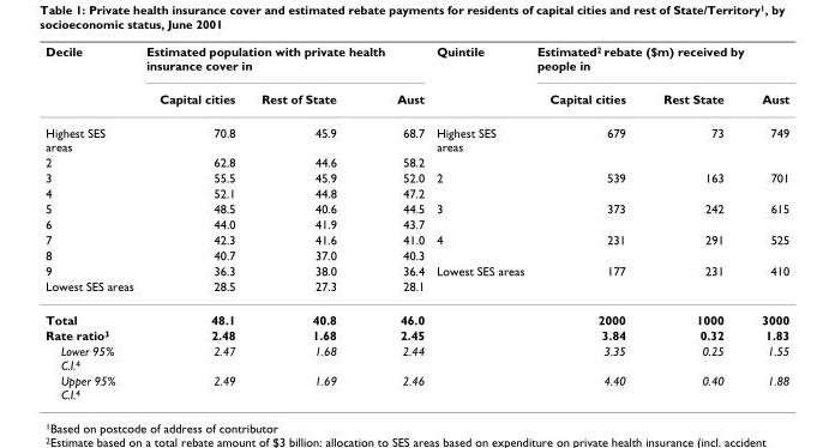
<table><thead><tr><td rowspan="2">Decile</td><td colspan="3">Estimated population with private health insurance cover in</td><td rowspan="2">Quintile</td><td colspan="3">Estimated<sup>2</sup> rebate ($m) received by people in</td></tr><tr><td>Capital cities</td><td>Rest of State</td><td>Aust</td><td>Capital cities</td><td>Rest State</td><td>Aust</td></tr></thead><tbody><tr><td>Highest SES areas</td><td>70.8</td><td>45.9</td><td>68.7</td><td>Highest SES areas</td><td>679</td><td>73</td><td>749</td></tr><tr><td>2</td><td>62.8</td><td>44.6</td><td>58.2</td><td></td><td></td><td></td><td></td></tr><tr><td>3</td><td>55.5</td><td>45.9</td><td>52.0</td><td>2</td><td>539</td><td>163</td><td>701</td></tr><tr><td>4</td><td>52.1</td><td>44.8</td><td>47.2</td><td></td><td></td><td></td><td></td></tr><tr><td>5</td><td>48.5</td><td>40.6</td><td>44.5</td><td>3</td><td>373</td><td>242</td><td>615</td></tr><tr><td>6</td><td>44.0</td><td>41.9</td><td>43.7</td><td></td><td></td><td></td><td></td></tr><tr><td>7</td><td>42.3</td><td>41.6</td><td>41.0</td><td>4</td><td>231</td><td>291</td><td>525</td></tr><tr><td>8</td><td>40.7</td><td>37.0</td><td>40.3</td><td></td><td></td><td></td><td></td></tr><tr><td>9</td><td>36.3</td><td>38.0</td><td>36.4</td><td>Lowest SES areas</td><td>177</td><td>231</td><td>410</td></tr><tr><td>Lowest SES areas</td><td>28.5</td><td>27.3</td><td>28.1</td><td></td><td></td><td></td><td></td></tr><tr><td>Total</td><td>48.1</td><td>40.8</td><td>46.0</td><td></td><td>2000</td><td>1000</td><td>3000</td></tr><tr><td>Rate ratio<sup>3</sup></td><td>2.48</td><td>1.68</td><td>2.45</td><td></td><td>3.84</td><td>0.32</td><td>1.83</td></tr><tr><td>Lower 95% C.I.<sup>4</sup></td><td>2.47</td><td>1.68</td><td>2.44</td><td></td><td>3.35</td><td>0.25</td><td>1.55</td></tr><tr><td>Upper 95% C.I.<sup>4</sup></td><td>2.49</td><td>1.69</td><td>2.46</td><td></td><td>4.40</td><td>0.40</td><td>1.88</td></tr></tbody></table>